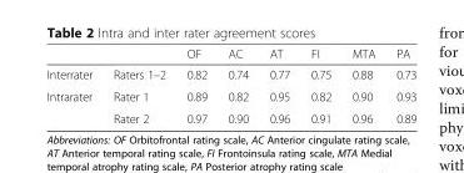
<table><thead><tr><td></td><td></td><td>OF</td><td>AC</td><td>AT</td><td>FI</td><td>MTA</td><td>PA</td></tr></thead><tbody><tr><td>Interrater</td><td>Raters 1–2</td><td>0.82</td><td>0.74</td><td>0.77</td><td>0.75</td><td>0.88</td><td>0.73</td></tr><tr><td rowspan="2">Intrarater</td><td>Rater 1</td><td>0.89</td><td>0.82</td><td>0.95</td><td>0.82</td><td>0.90</td><td>0.93</td></tr><tr><td>Rater 2</td><td>0.97</td><td>0.90</td><td>0.96</td><td>0.91</td><td>0.96</td><td>0.89</td></tr></tbody></table>